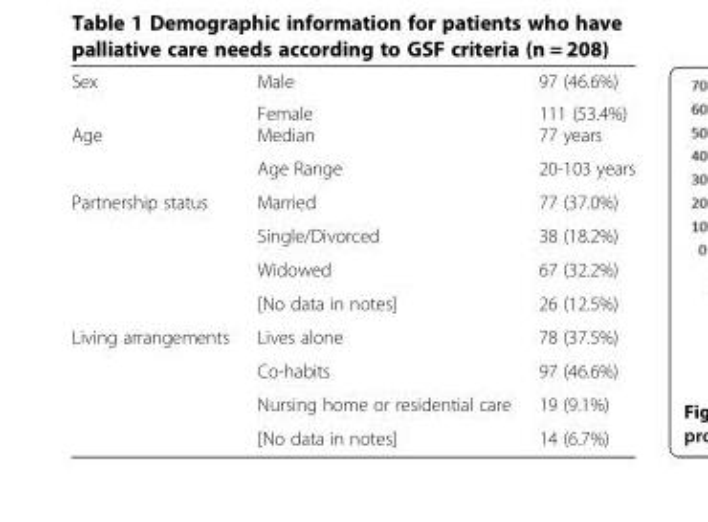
<table><tbody><tr><td rowspan="2">Sex</td><td>Male</td><td>97 (46.6%)</td></tr><tr><td>Female</td><td>111 (53.4%)</td></tr><tr><td rowspan="2">Age</td><td>Median</td><td>77 years</td></tr><tr><td>Age Range</td><td>20-103 years</td></tr><tr><td rowspan="4">Partnership status</td><td>Married</td><td>77 (37.0%)</td></tr><tr><td>Single/Divorced</td><td>38 (18.2%)</td></tr><tr><td>Widowed</td><td>67 (32.2%)</td></tr><tr><td>[No data in notes]</td><td>26 (12.5%)</td></tr><tr><td rowspan="4">Living arrangements</td><td>Lives alone</td><td>78 (37.5%)</td></tr><tr><td>Co-habits</td><td>97 (46.6%)</td></tr><tr><td>Nursing home or residential care</td><td>19 (9.1%)</td></tr><tr><td>[No data in notes]</td><td>14 (6.7%)</td></tr></tbody></table>